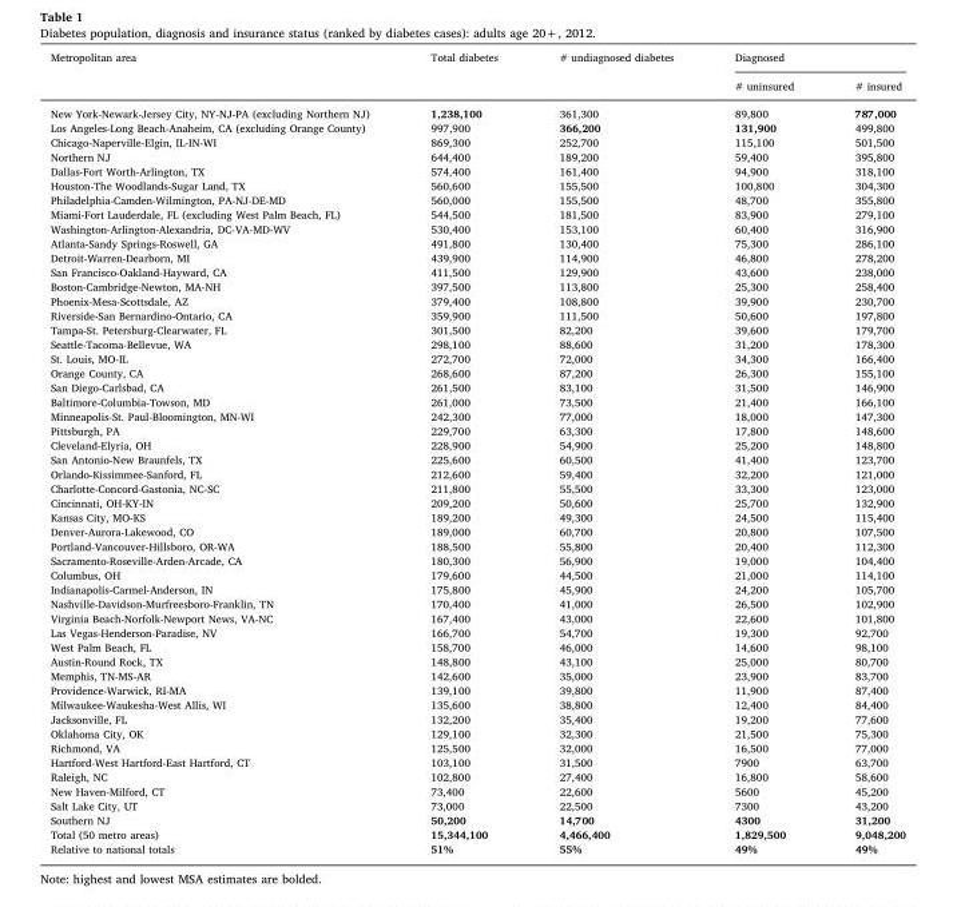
<table><thead><tr><td rowspan="2">Metropolitan area</td><td rowspan="2">Total diabetes</td><td rowspan="2"># undiagnosed diabetes</td><td colspan="2">Diagnosed</td></tr><tr><td># uninsured</td><td># insured</td></tr></thead><tbody><tr><td>New York-Newark-Jersey City, NY-NJ-PA (excluding Northern NJ)</td><td>1,238,100</td><td>361,300</td><td>89,800</td><td>787,000</td></tr><tr><td>Los Angeles-Long Beach-Anaheim, CA (excluding Orange County)</td><td>997,900</td><td>366,200</td><td>131,900</td><td>499,800</td></tr><tr><td>Chicago-Naperville-Elgin, IL-IN-WI</td><td>869,300</td><td>252,700</td><td>115,100</td><td>501,500</td></tr><tr><td>Northern NJ</td><td>644,400</td><td>189,200</td><td>59,400</td><td>395,800</td></tr><tr><td>Dallas-Fort Worth-Arlington, TX</td><td>574,400</td><td>161,400</td><td>94,900</td><td>318,100</td></tr><tr><td>Houston-The Woodlands-Sugar Land, TX</td><td>560,600</td><td>155,500</td><td>100,800</td><td>304,300</td></tr><tr><td>Philadelphia-Camden-Wilmington, PA-NJ-DE-MD</td><td>560,000</td><td>155,500</td><td>48,700</td><td>355,800</td></tr><tr><td>Miami-Fort Lauderdale, FL (excluding West Palm Beach, FL)</td><td>544,500</td><td>181,500</td><td>83,900</td><td>279,100</td></tr><tr><td>Washington-Arlington-Alexandria, DC-VA-MD-WV</td><td>530,400</td><td>153,100</td><td>60,400</td><td>316,900</td></tr><tr><td>Atlanta-Sandy Springs-Roswell, GA</td><td>491,800</td><td>130,400</td><td>75,300</td><td>286,100</td></tr><tr><td>Detroit-Warren-Dearborn, MI</td><td>439,900</td><td>114,900</td><td>46,800</td><td>278,200</td></tr><tr><td>San Francisco-Oakland-Hayward, CA</td><td>411,500</td><td>129,900</td><td>43,600</td><td>238,000</td></tr><tr><td>Boston-Cambridge-Newton, MA-NH</td><td>397,500</td><td>113,800</td><td>25,300</td><td>258,400</td></tr><tr><td>Phoenix-Mesa-Scottsdale, AZ</td><td>379,400</td><td>108,800</td><td>39,900</td><td>230,700</td></tr><tr><td>Riverside-San Bernardino-Ontario, CA</td><td>359,900</td><td>111,500</td><td>50,600</td><td>197,800</td></tr><tr><td>Tampa-St. Petersburg-Clearwater, FL</td><td>301,500</td><td>82,200</td><td>39,600</td><td>179,700</td></tr><tr><td>Seattle-Tacoma-Bellevue, WA</td><td>298,100</td><td>88,600</td><td>31,200</td><td>178,300</td></tr><tr><td>St. Louis, MO-IL</td><td>272,700</td><td>72,000</td><td>34,300</td><td>166,400</td></tr><tr><td>Orange County, CA</td><td>268,600</td><td>87,200</td><td>26,300</td><td>155,100</td></tr><tr><td>San Diego-Carlsbad, CA</td><td>261,500</td><td>83,100</td><td>31,500</td><td>146,900</td></tr><tr><td>Baltimore-Columbia-Towson, MD</td><td>261,000</td><td>73,500</td><td>21,400</td><td>166,100</td></tr><tr><td>Minneapolis-St. Paul-Bloomington, MN-WI</td><td>242,300</td><td>77,000</td><td>18,000</td><td>147,300</td></tr><tr><td>Pittsburgh, PA</td><td>229,700</td><td>63,300</td><td>17,800</td><td>148,600</td></tr><tr><td>Cleveland-Elyria, OH</td><td>228,900</td><td>54,900</td><td>25,200</td><td>148,800</td></tr><tr><td>San Antonio-New Braunfels, TX</td><td>225,600</td><td>60,500</td><td>41,400</td><td>123,700</td></tr><tr><td>Orlando-Kissimmee-Sanford, FL</td><td>212,600</td><td>59,400</td><td>32,200</td><td>121,000</td></tr><tr><td>Charlotte-Concord-Gastonia, NC-SC</td><td>211,800</td><td>55,500</td><td>33,300</td><td>123,000</td></tr><tr><td>Cincinnati, OH-KY-IN</td><td>209,200</td><td>50,600</td><td>25,700</td><td>132,900</td></tr><tr><td>Kansas City, MO-KS</td><td>189,200</td><td>49,300</td><td>24,500</td><td>115,400</td></tr><tr><td>Denver-Aurora-Lakewood, CO</td><td>189,000</td><td>60,700</td><td>20,800</td><td>107,500</td></tr><tr><td>Portland-Vancouver-Hillsboro, OR-WA</td><td>188,500</td><td>55,800</td><td>20,400</td><td>112,300</td></tr><tr><td>Sacramento-Roseville-Arden-Arcade, CA</td><td>180,300</td><td>56,900</td><td>19,000</td><td>104,400</td></tr><tr><td>Columbus, OH</td><td>179,600</td><td>44,500</td><td>21,000</td><td>114,100</td></tr><tr><td>Indianapolis-Carmel-Anderson, IN</td><td>175,800</td><td>45,900</td><td>24,200</td><td>105,700</td></tr><tr><td>Nashville-Davidson-Murfreesboro-Franklin, TN</td><td>170,400</td><td>41,000</td><td>26,500</td><td>102,900</td></tr><tr><td>Virginia Beach-Norfolk-Newport News, VA-NC</td><td>167,400</td><td>43,000</td><td>22,600</td><td>101,800</td></tr><tr><td>Las Vegas-Henderson-Paradise, NV</td><td>166,700</td><td>54,700</td><td>19,300</td><td>92,700</td></tr><tr><td>West Palm Beach, FL</td><td>158,700</td><td>46,000</td><td>14,600</td><td>98,100</td></tr><tr><td>Austin-Round Rock, TX</td><td>148,800</td><td>43,100</td><td>25,000</td><td>80,700</td></tr><tr><td>Memphis, TN-MS-AR</td><td>142,600</td><td>35,000</td><td>23,900</td><td>83,700</td></tr><tr><td>Providence-Warwick, RI-MA</td><td>139,100</td><td>39,800</td><td>11,900</td><td>87,400</td></tr><tr><td>Milwaukee-Waukesha-West Allis, WI</td><td>135,600</td><td>38,800</td><td>12,400</td><td>84,400</td></tr><tr><td>Jacksonville, FL</td><td>132,200</td><td>35,400</td><td>19,200</td><td>77,600</td></tr><tr><td>Oklahoma City, OK</td><td>129,100</td><td>32,300</td><td>21,500</td><td>75,300</td></tr><tr><td>Richmond, VA</td><td>125,500</td><td>32,000</td><td>16,500</td><td>77,000</td></tr><tr><td>Hartford-West Hartford-East Hartford, CT</td><td>103,100</td><td>31,500</td><td>7900</td><td>63,700</td></tr><tr><td>Raleigh, NC</td><td>102,800</td><td>27,400</td><td>16,800</td><td>58,600</td></tr><tr><td>New Haven-Milford, CT</td><td>73,400</td><td>22,600</td><td>5600</td><td>45,200</td></tr><tr><td>Salt Lake City, UT</td><td>73,000</td><td>22,500</td><td>7300</td><td>43,200</td></tr><tr><td>Southern NJ</td><td>50,200</td><td>14,700</td><td>4300</td><td>31,200</td></tr><tr><td>Total (50 metro areas)</td><td>15,344,100</td><td>4,466,400</td><td>1,829,500</td><td>9,048,200</td></tr><tr><td>Relative to national totals</td><td>51%</td><td>55%</td><td>49%</td><td>49%</td></tr></tbody></table>